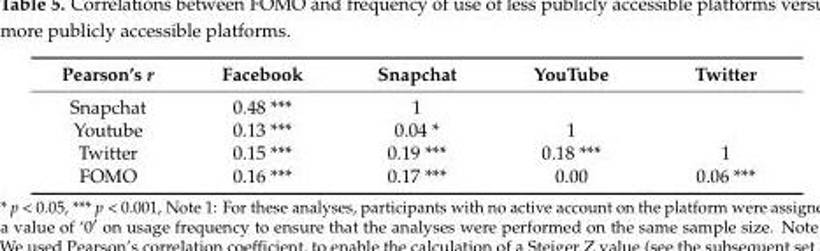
<table><thead><tr><td>Pearson’s r</td><td>Facebook</td><td>Snapchat</td><td>YouTube</td><td>Twitter</td></tr></thead><tbody><tr><td>Snapchat</td><td>0.48 ***</td><td>1</td><td></td><td></td></tr><tr><td>Youtube</td><td>0.13 ***</td><td>0.04 *</td><td>1</td><td></td></tr><tr><td>Twitter</td><td>0.15 ***</td><td>0.19 ***</td><td>0.18 ***</td><td>1</td></tr><tr><td>FOMO</td><td>0.16 ***</td><td>0.17 ***</td><td>0.00</td><td>0.06 ***</td></tr></tbody></table>